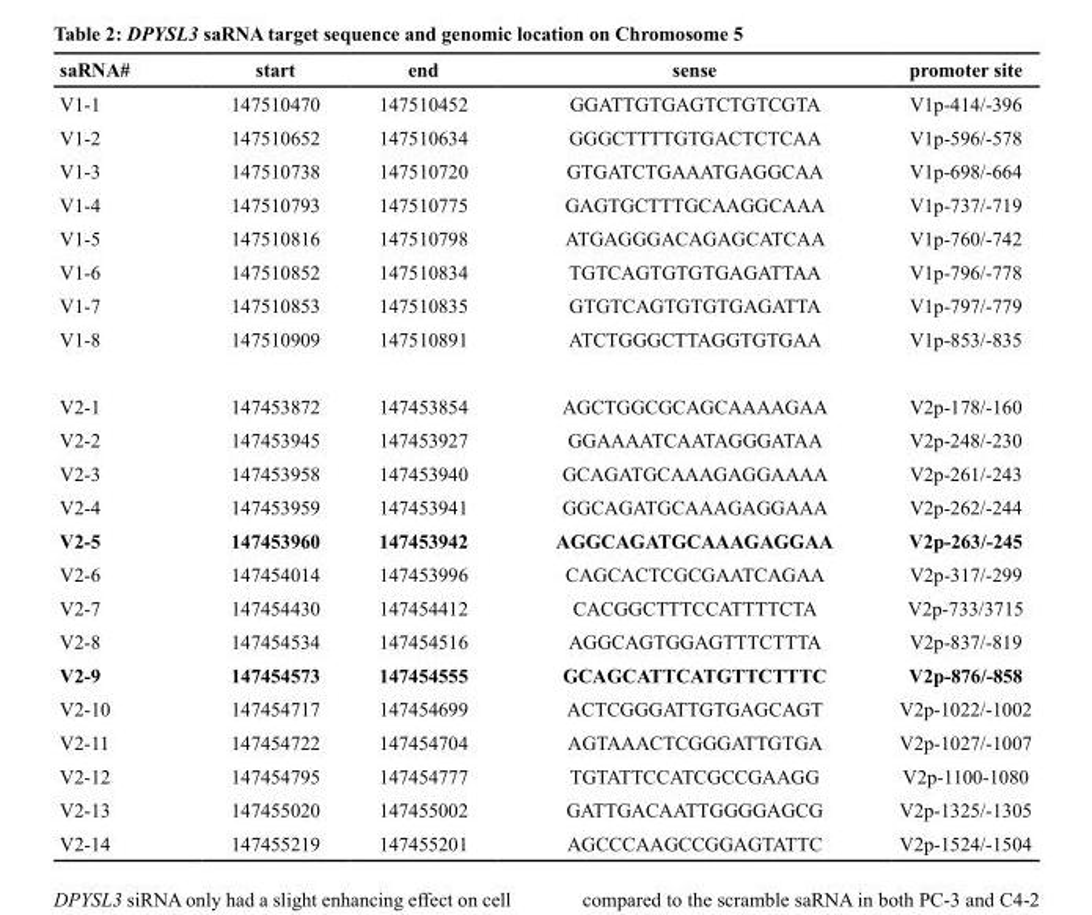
<table><thead><tr><td>saRNA#</td><td>start</td><td>end</td><td>sense</td><td>promoter site</td></tr></thead><tbody><tr><td>V1-1</td><td>147510470</td><td>147510452</td><td>GGATTGTGAGTCTGTCGTA</td><td>V1p-414/-396</td></tr><tr><td>V1-2</td><td>147510652</td><td>147510634</td><td>GGGCTTTTGTGACTCTCAA</td><td>V1p-596/-578</td></tr><tr><td>V1-3</td><td>147510738</td><td>147510720</td><td>GTGATCTGAAATGAGGCAA</td><td>V1p-698/-664</td></tr><tr><td>V1-4</td><td>147510793</td><td>147510775</td><td>GAGTGCTTTGCAAGGCAAA</td><td>V1p-737/-719</td></tr><tr><td>V1-5</td><td>147510816</td><td>147510798</td><td>ATGAGGGACAGAGCATCAA</td><td>V1p-760/-742</td></tr><tr><td>V1-6</td><td>147510852</td><td>147510834</td><td>TGTCAGTGTGTGAGATTAA</td><td>V1p-796/-778</td></tr><tr><td>V1-7</td><td>147510853</td><td>147510835</td><td>GTGTCAGTGTGTGAGATTA</td><td>V1p-797/-779</td></tr><tr><td>V1-8</td><td>147510909</td><td>147510891</td><td>ATCTGGGCTTAGGTGTGAA</td><td>V1p-853/-835</td></tr><tr><td>V2-1</td><td>147453872</td><td>147453854</td><td>AGCTGGCGCAGCAAAAGAA</td><td>V2p-178/-160</td></tr><tr><td>V2-2</td><td>147453945</td><td>147453927</td><td>GGAAAATCAATAGGGATAA</td><td>V2p-248/-230</td></tr><tr><td>V2-3</td><td>147453958</td><td>147453940</td><td>GCAGATGCAAAGAGGAAAA</td><td>V2p-261/-243</td></tr><tr><td>V2-4</td><td>147453959</td><td>147453941</td><td>GGCAGATGCAAAGAGGAAA</td><td>V2p-262/-244</td></tr><tr><td>V2-5</td><td>147453960</td><td>147453942</td><td>AGGCAGATGCAAAGAGGAA</td><td>V2p-263/-245</td></tr><tr><td>V2-6</td><td>147454014</td><td>147453996</td><td>CAGCACTCGCGAATCAGAA</td><td>V2p-317/-299</td></tr><tr><td>V2-7</td><td>147454430</td><td>147454412</td><td>CACGGCTTTCCATTTTCTA</td><td>V2p-733/3715</td></tr><tr><td>V2-8</td><td>147454534</td><td>147454516</td><td>AGGCAGTGGAGTTTCTTTA</td><td>V2p-837/-819</td></tr><tr><td>V2-9</td><td>147454573</td><td>147454555</td><td>GCAGCATTCATGTTCTTTC</td><td>V2p-876/-858</td></tr><tr><td>V2-10</td><td>147454717</td><td>147454699</td><td>ACTCGGGATTGTGAGCAGT</td><td>V2p-1022/-1002</td></tr><tr><td>V2-11</td><td>147454722</td><td>147454704</td><td>AGTAAACTCGGGATTGTGA</td><td>V2p-1027/-1007</td></tr><tr><td>V2-12</td><td>147454795</td><td>147454777</td><td>TGTATTCCATCGCCGAAGG</td><td>V2p-1100-1080</td></tr><tr><td>V2-13</td><td>147455020</td><td>147455002</td><td>GATTGACAATTGGGGAGCG</td><td>V2p-1325/-1305</td></tr><tr><td>V2-14</td><td>147455219</td><td>147455201</td><td>AGCCCAAGCCGGAGTATTC</td><td>V2p-1524/-1504</td></tr></tbody></table>